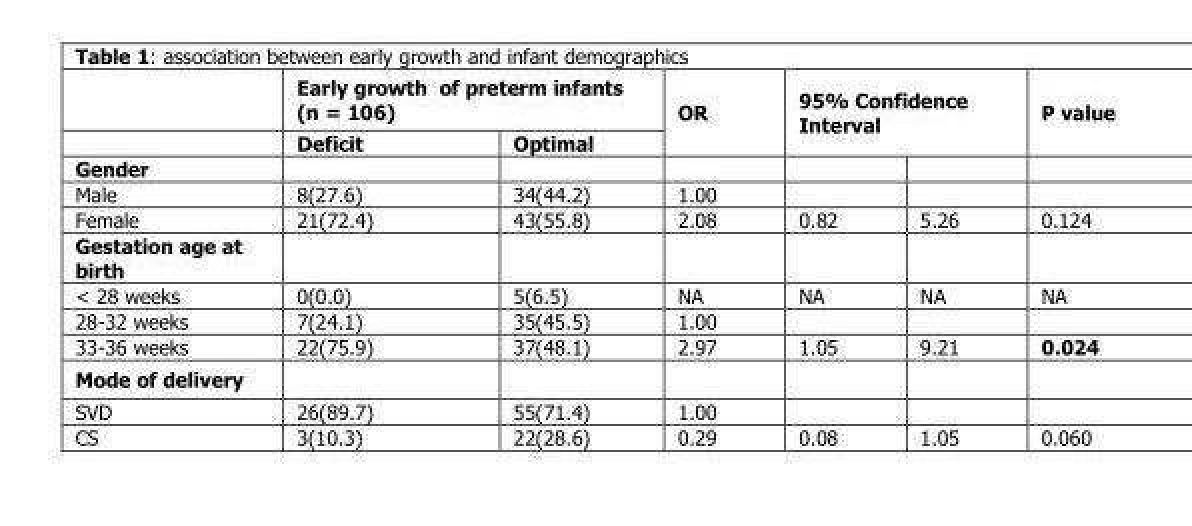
<table><thead><tr><td rowspan="3">Gender</td><td colspan="2">Early growth of preterm infants (n = 106)</td><td rowspan="3">OR</td><td rowspan="2" colspan="2">95% Confidence Interval</td><td rowspan="3">P value</td></tr><tr><td rowspan="2">Deficit</td><td rowspan="2">Optimal</td></tr><tr><td></td><td></td></tr></thead><tbody><tr><td>Male</td><td>8(27.6)</td><td>34(44.2)</td><td>1.00</td><td></td><td></td><td></td></tr><tr><td>Female</td><td>21(72.4)</td><td>43(55.8)</td><td>2.08</td><td>0.82</td><td>5.26</td><td>0.124</td></tr><tr><td colspan="7">Gestation age at birth</td></tr><tr><td>&lt; 28 weeks</td><td>0(0.0)</td><td>5(6.5)</td><td>NA</td><td>NA</td><td>NA</td><td>NA</td></tr><tr><td>28-32 weeks</td><td>7(24.1)</td><td>35(45.5)</td><td>1.00</td><td></td><td></td><td></td></tr><tr><td>33-36 weeks</td><td>22(75.9)</td><td>37(48.1)</td><td>2.97</td><td>1.05</td><td>9.21</td><td>0.024</td></tr><tr><td colspan="7">Mode of delivery</td></tr><tr><td>SVD</td><td>26(89.7)</td><td>55(71.4)</td><td>1.00</td><td></td><td></td><td></td></tr><tr><td>CS</td><td>3(10.3)</td><td>22(28.6)</td><td>0.29</td><td>0.08</td><td>1.05</td><td>0.060</td></tr></tbody></table>